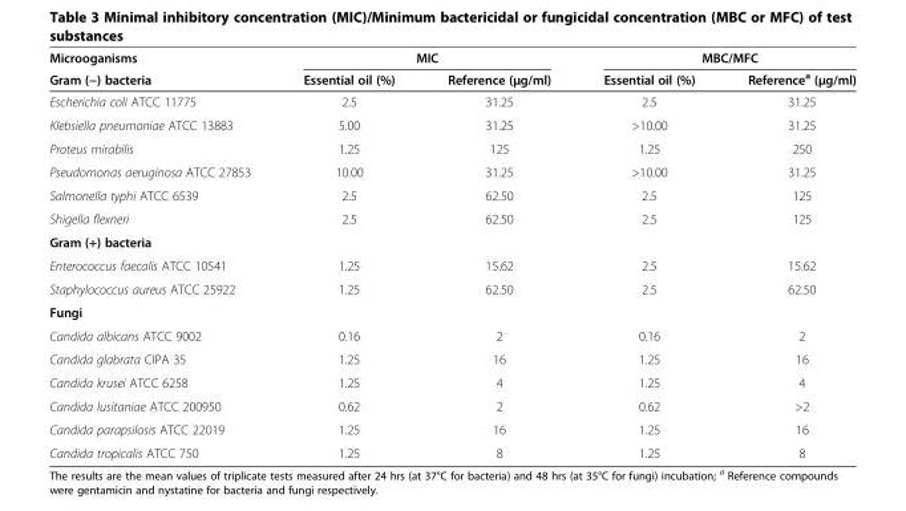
<table><thead><tr><td rowspan="2">Microoganisms Gram (−) bacteria</td><td colspan="2">MIC</td><td colspan="2">MBC/MFC</td></tr><tr><td>Essential oil (%)</td><td>Reference (μg/ml)</td><td>Essential oil (%)</td><td>Reference<sup>a</sup> (μg/ml)</td></tr></thead><tbody><tr><td>Escherichia coli ATCC 11775</td><td>2.5</td><td>31.25</td><td>2.5</td><td>31.25</td></tr><tr><td>Klebsiella pneumoniae ATCC 13883</td><td>5.00</td><td>31.25</td><td>&gt;10.00</td><td>31.25</td></tr><tr><td>Proteus mirabilis</td><td>1.25</td><td>125</td><td>1.25</td><td>250</td></tr><tr><td>Pseudomonas aeruginosa ATCC 27853</td><td>10.00</td><td>31.25</td><td>&gt;10.00</td><td>31.25</td></tr><tr><td>Salmonella typhi ATCC 6539</td><td>2.5</td><td>62.50</td><td>2.5</td><td>125</td></tr><tr><td>Shigella flexneri</td><td>2.5</td><td>62.50</td><td>2.5</td><td>125</td></tr><tr><td colspan="5">Gram (+) bacteria</td></tr><tr><td>Enterococcus faecalis ATCC 10541</td><td>1.25</td><td>15.62</td><td>2.5</td><td>15.62</td></tr><tr><td>Staphylococcus aureus ATCC 25922</td><td>1.25</td><td>62.50</td><td>2.5</td><td>62.50</td></tr><tr><td colspan="5">Fungi</td></tr><tr><td>Candida albicans ATCC 9002</td><td>0.16</td><td>2</td><td>0.16</td><td>2</td></tr><tr><td>Candida glabrata CIPA 35</td><td>1.25</td><td>16</td><td>1.25</td><td>16</td></tr><tr><td>Candida krusei ATCC 6258</td><td>1.25</td><td>4</td><td>1.25</td><td>4</td></tr><tr><td>Candida lusitaniae ATCC 200950</td><td>0.62</td><td>2</td><td>0.62</td><td>&gt;2</td></tr><tr><td>Candida parapsilosis ATCC 22019</td><td>1.25</td><td>16</td><td>1.25</td><td>16</td></tr><tr><td>Candida tropicalis ATCC 750</td><td>1.25</td><td>8</td><td>1.25</td><td>8</td></tr></tbody></table>